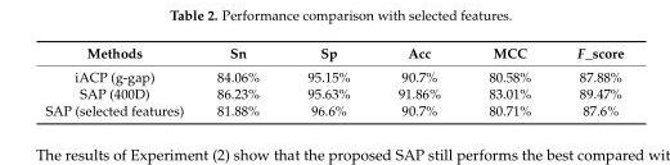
<table><thead><tr><td>Methods</td><td>Sn</td><td>Sp</td><td>Acc</td><td>MCC</td><td>F_score</td></tr></thead><tbody><tr><td>iACP (g-gap)</td><td>84.06%</td><td>95.15%</td><td>90.7%</td><td>80.58%</td><td>87.88%</td></tr><tr><td>SAP (400D)</td><td>86.23%</td><td>95.63%</td><td>91.86%</td><td>83.01%</td><td>89.47%</td></tr><tr><td>SAP (selected features)</td><td>81.88%</td><td>96.6%</td><td>90.7%</td><td>80.71%</td><td>87.6%</td></tr></tbody></table>